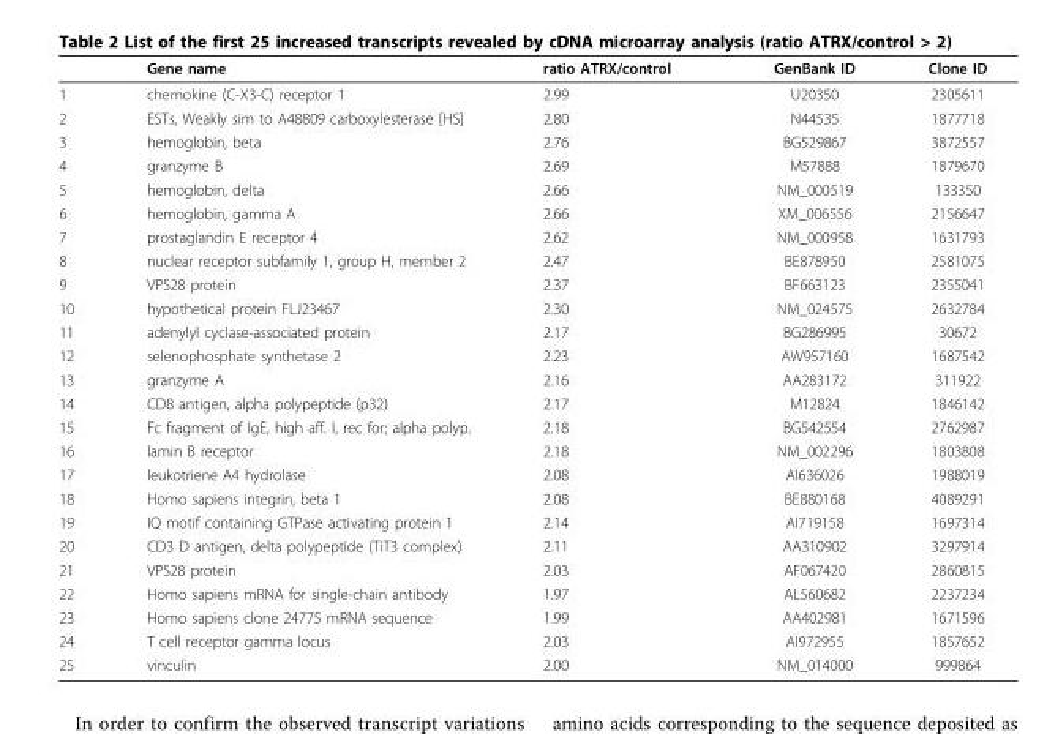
<table><thead><tr><td></td><td>Gene name</td><td>ratio ATRX/control</td><td>GenBank ID</td><td>Clone ID</td></tr></thead><tbody><tr><td>1</td><td>chemokine (C-X3-C) receptor 1</td><td>2.99</td><td>U20350</td><td>2305611</td></tr><tr><td>2</td><td>ESTs, Weakly sim to A48809 carboxylesterase [HS]</td><td>2.80</td><td>N44535</td><td>1877718</td></tr><tr><td>3</td><td>hemoglobin, beta</td><td>2.76</td><td>BG529867</td><td>3872557</td></tr><tr><td>4</td><td>granzyme B</td><td>2.69</td><td>M57888</td><td>1879670</td></tr><tr><td>5</td><td>hemoglobin, delta</td><td>2.66</td><td>NM_000519</td><td>133350</td></tr><tr><td>6</td><td>hemoglobin, gamma A</td><td>2.66</td><td>XM_006556</td><td>2156647</td></tr><tr><td>7</td><td>prostaglandin E receptor 4</td><td>2.62</td><td>NM_000958</td><td>1631793</td></tr><tr><td>8</td><td>nuclear receptor subfamily 1, group H, member 2</td><td>2.47</td><td>BE878950</td><td>2581075</td></tr><tr><td>9</td><td>VPS28 protein</td><td>2.37</td><td>BF663123</td><td>2355041</td></tr><tr><td>10</td><td>hypothetical protein FLJ23467</td><td>2.30</td><td>NM_024575</td><td>2632784</td></tr><tr><td>11</td><td>adenylyl cyclase-associated protein</td><td>2.17</td><td>BG286995</td><td>30672</td></tr><tr><td>12</td><td>selenophosphate synthetase 2</td><td>2.23</td><td>AW957160</td><td>1687542</td></tr><tr><td>13</td><td>granzyme A</td><td>2.16</td><td>AA283172</td><td>311922</td></tr><tr><td>14</td><td>CD8 antigen, alpha polypeptide (p32)</td><td>2.17</td><td>M12824</td><td>1846142</td></tr><tr><td>15</td><td>Fc fragment of IgE, high aff. I, rec for; alpha polyp.</td><td>2.18</td><td>BG542554</td><td>2762987</td></tr><tr><td>16</td><td>lamin B receptor</td><td>2.18</td><td>NM_002296</td><td>1803808</td></tr><tr><td>17</td><td>leukotriene A4 hydrolase</td><td>2.08</td><td>AI636026</td><td>1988019</td></tr><tr><td>18</td><td>Homo sapiens integrin, beta 1</td><td>2.08</td><td>BE880168</td><td>4089291</td></tr><tr><td>19</td><td>IQ motif containing GTPase activating protein 1</td><td>2.14</td><td>AI719158</td><td>1697314</td></tr><tr><td>20</td><td>CD3 D antigen, delta polypeptide (TiT3 complex)</td><td>2.11</td><td>AA310902</td><td>3297914</td></tr><tr><td>21</td><td>VPS28 protein</td><td>2.03</td><td>AF067420</td><td>2860815</td></tr><tr><td>22</td><td>Homo sapiens mRNA for single-chain antibody</td><td>1.97</td><td>AL560682</td><td>2237234</td></tr><tr><td>23</td><td>Homo sapiens clone 24775 mRNA sequence</td><td>1.99</td><td>AA402981</td><td>1671596</td></tr><tr><td>24</td><td>T cell receptor gamma locus</td><td>2.03</td><td>AI972955</td><td>1857652</td></tr><tr><td>25</td><td>vinculin</td><td>2.00</td><td>NM_014000</td><td>999864</td></tr></tbody></table>